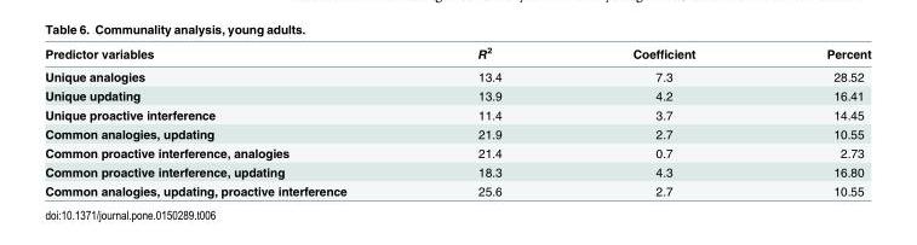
<table><thead><tr><td>Predictor variables</td><td>R<sup>2</sup></td><td>Coefficient</td><td>Percent</td></tr></thead><tbody><tr><td>Unique analogies</td><td>13.4</td><td>7.3</td><td>28.52</td></tr><tr><td>Unique updating</td><td>13.9</td><td>4.2</td><td>16.41</td></tr><tr><td>Unique proactive interference</td><td>11.4</td><td>3.7</td><td>14.45</td></tr><tr><td>Common analogies, updating</td><td>21.9</td><td>2.7</td><td>10.55</td></tr><tr><td>Common proactive interference, analogies</td><td>21.4</td><td>0.7</td><td>2.73</td></tr><tr><td>Common proactive interference, updating</td><td>18.3</td><td>4.3</td><td>16.80</td></tr><tr><td>Common analogies, updating, proactive interference</td><td>25.6</td><td>2.7</td><td>10.55</td></tr></tbody></table>